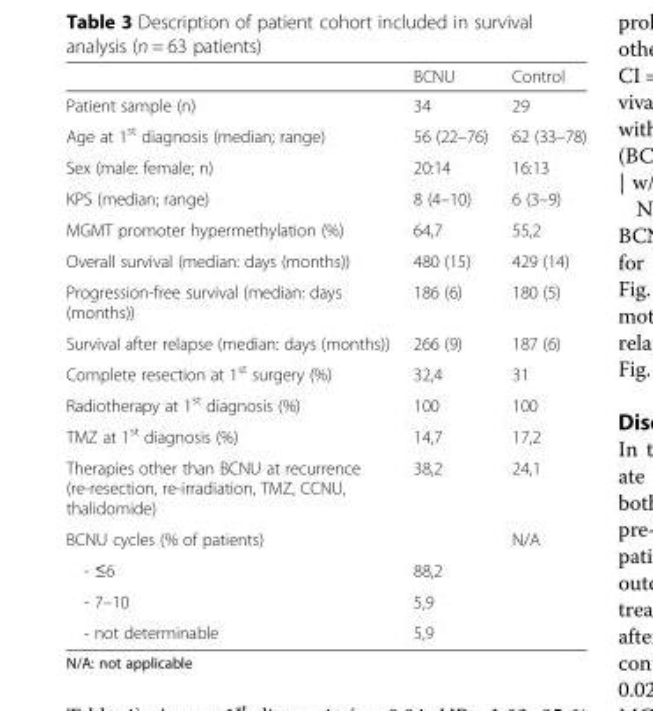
<table><thead><tr><td></td><td>BCNU</td><td>Control</td></tr></thead><tbody><tr><td>Patient sample (n)</td><td>34</td><td>29</td></tr><tr><td>Age at 1<sup>st</sup> diagnosis (median; range)</td><td>56 (22–76)</td><td>62 (33–78)</td></tr><tr><td>Sex (male: female; n)</td><td>20:14</td><td>16:13</td></tr><tr><td>KPS (median; range)</td><td>8 (4–10)</td><td>6 (3–9)</td></tr><tr><td>MGMT promoter hypermethylation (%)</td><td>64,7</td><td>55,2</td></tr><tr><td>Overall survival (median: days (months))</td><td>480 (15)</td><td>429 (14)</td></tr><tr><td>Progression-free survival (median: days (months))</td><td>186 (6)</td><td>180 (5)</td></tr><tr><td>Survival after relapse (median: days (months))</td><td>266 (9)</td><td>187 (6)</td></tr><tr><td>Complete resection at 1<sup>st</sup> surgery (%)</td><td>32,4</td><td>31</td></tr><tr><td>Radiotherapy at 1<sup>st</sup> diagnosis (%)</td><td>100</td><td>100</td></tr><tr><td>TMZ at 1<sup>st</sup> diagnosis (%)</td><td>14,7</td><td>17,2</td></tr><tr><td>Therapies other than BCNU at recurrence (re-resection, re-irradiation, TMZ, CCNU, thalidomide)</td><td>38,2</td><td>24,1</td></tr><tr><td>BCNU cycles (% of patients)</td><td></td><td>N/A</td></tr><tr><td>- ≤6</td><td>88,2</td><td></td></tr><tr><td>- 7–10</td><td>5,9</td><td></td></tr><tr><td>- not determinable</td><td>5,9</td><td></td></tr></tbody></table>